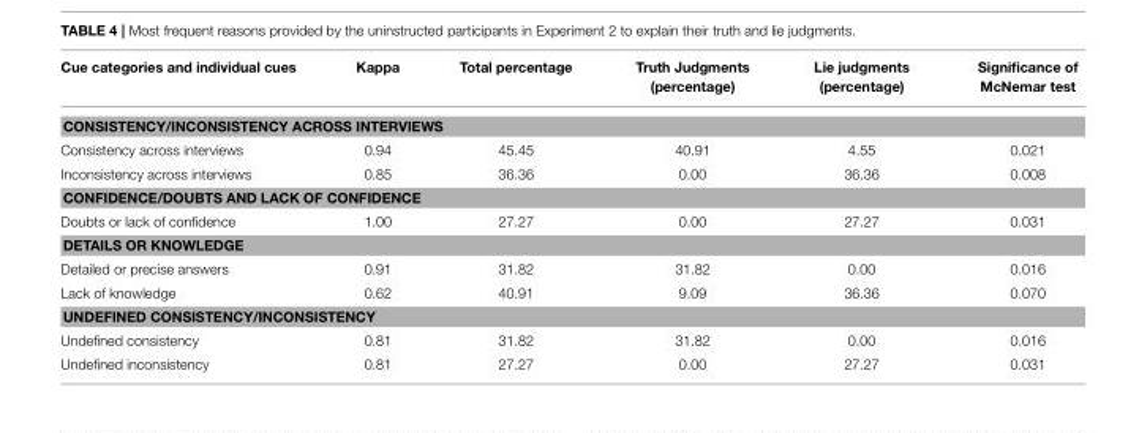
<table><thead><tr><td>Cue categories and individual cues</td><td>Kappa</td><td>Total percentage</td><td>Truth Judgments (percentage)</td><td>Lie judgments (percentage)</td><td>Significance of McNemar test</td></tr></thead><tbody><tr><td colspan="6">CONSISTENCY/INCONSISTENCY ACROSS INTERVIEWS</td></tr><tr><td>Consistency across interviews</td><td>0.94</td><td>45.45</td><td>40.91</td><td>4.55</td><td>0.021</td></tr><tr><td>Inconsistency across interviews</td><td>0.85</td><td>36.36</td><td>0.00</td><td>36.36</td><td>0.008</td></tr><tr><td colspan="6">CONFIDENCE/DOUBTS AND LACK OF CONFIDENCE</td></tr><tr><td>Doubts or lack of confidence</td><td>1.00</td><td>27.27</td><td>0.00</td><td>27.27</td><td>0.031</td></tr><tr><td colspan="6">DETAILS OR KNOWLEDGE</td></tr><tr><td>Detailed or precise answers</td><td>0.91</td><td>31.82</td><td>31.82</td><td>0.00</td><td>0.016</td></tr><tr><td>Lack of knowledge</td><td>0.62</td><td>40.91</td><td>9.09</td><td>36.36</td><td>0.070</td></tr><tr><td colspan="6">UNDEFINED CONSISTENCY/INCONSISTENCY</td></tr><tr><td>Undefined consistency</td><td>0.81</td><td>31.82</td><td>31.82</td><td>0.00</td><td>0.016</td></tr><tr><td>Undefined inconsistency</td><td>0.81</td><td>27.27</td><td>0.00</td><td>27.27</td><td>0.031</td></tr></tbody></table>